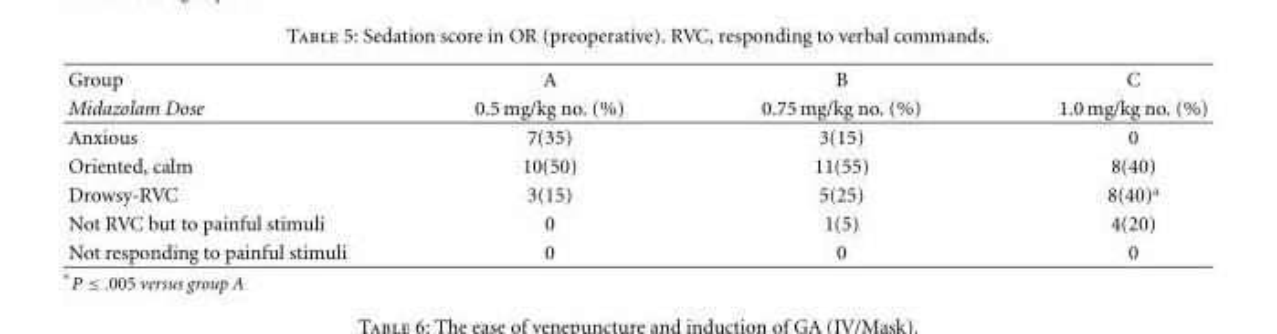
<table><thead><tr><td rowspan="2">Group Midazolam Dose</td><td rowspan="2">A 0.5 mg/kg no. (%)</td><td rowspan="2">B 0.75 mg/kg no. (%)</td><td rowspan="2">C 1.0 mg/kg no. (%)</td></tr><tr></tr></thead><tbody><tr><td>Anxious</td><td>7(35)</td><td>3(15)</td><td>0</td></tr><tr><td>Oriented, calm</td><td>10(50)</td><td>11(55)</td><td>8(40)</td></tr><tr><td>Drowsy-RVC</td><td>3(15)</td><td>5(25)</td><td>8(40)<sup>a</sup></td></tr><tr><td>Not RVC but to painful stimuli</td><td>0</td><td>1(5)</td><td>4(20)</td></tr><tr><td>Not responding to painful stimuli</td><td>0</td><td>0</td><td>0</td></tr></tbody></table>